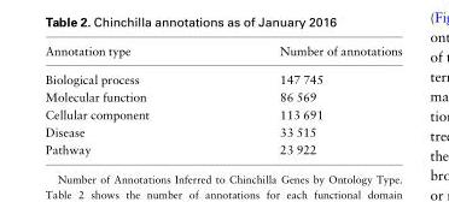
<table><thead><tr><td>Annotation type</td><td>Number of annotations</td></tr></thead><tbody><tr><td>Biological process</td><td>147 745</td></tr><tr><td>Molecular function</td><td>86 569</td></tr><tr><td>Cellular component</td><td>113 691</td></tr><tr><td>Disease</td><td>33 515</td></tr><tr><td>Pathway</td><td>23 922</td></tr></tbody></table>